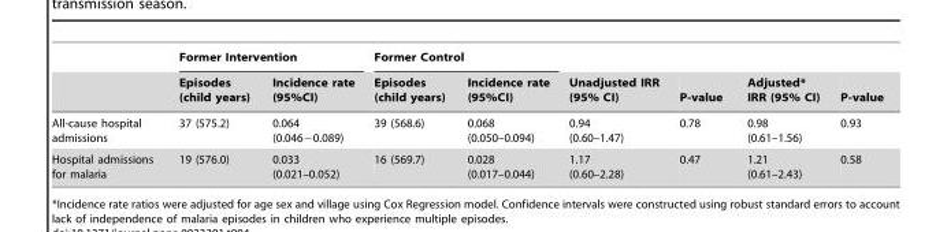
<table><thead><tr><td rowspan="2"></td><td colspan="2">Former Intervention</td><td colspan="2">Former Control</td><td rowspan="2">Unadjusted IRR (95% CI)</td><td rowspan="2">P-value</td><td rowspan="2">Adjusted* IRR (95% CI)</td><td rowspan="2">P-value</td></tr><tr><td>Episodes (child years)</td><td>Incidence rate (95%CI)</td><td>Episodes (child years)</td><td>Incidence rate (95%CI)</td></tr></thead><tbody><tr><td>All-cause hospital admissions</td><td>37 (575.2)</td><td>0.064 (0.046−0.089)</td><td>39 (568.6)</td><td>0.068 (0.050–0.094)</td><td>0.94 (0.60–1.47)</td><td>0.78</td><td>0.98 (0.61–1.56)</td><td>0.93</td></tr><tr><td>Hospital admissions for malaria</td><td>19 (576.0)</td><td>0.033 (0.021–0.052)</td><td>16 (569.7)</td><td>0.028 (0.017–0.044)</td><td>1.17 (0.60–2.28)</td><td>0.47</td><td>1.21 (0.61–2.43)</td><td>0.58</td></tr></tbody></table>